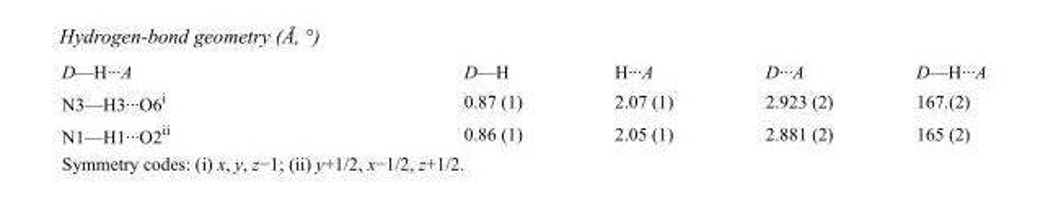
<table><tbody><tr><td>D—H···A</td><td>D—H</td><td>H···A</td><td>D···A</td><td>D—H···A</td></tr><tr><td>N3—H3···O6<sup>i</sup></td><td>0.87 (1)</td><td>2.07 (1)</td><td>2.923 (2)</td><td>167.(2)</td></tr><tr><td>N1—H1···O2<sup>ii</sup></td><td>0.86 (1)</td><td>2.05 (1)</td><td>2.881 (2)</td><td>165 (2)</td></tr></tbody></table>